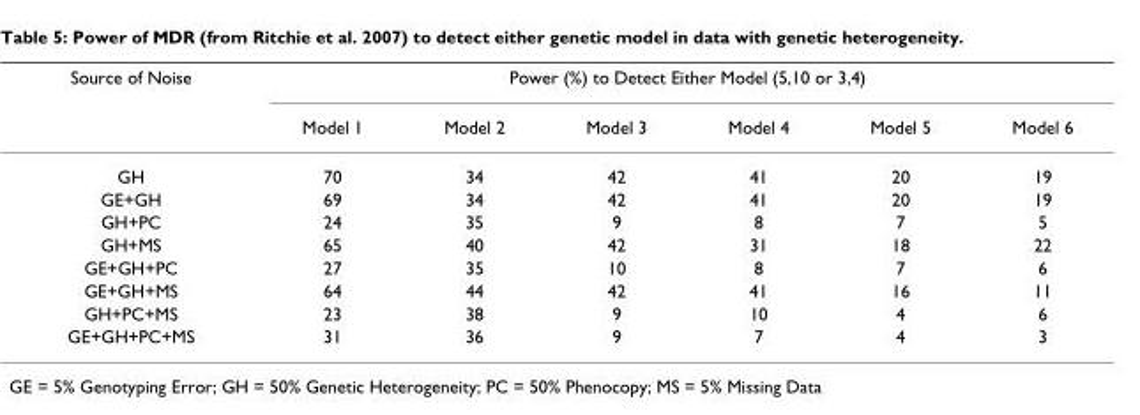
<table><thead><tr><td rowspan="2">Source of Noise</td><td colspan="6">Power (%) to Detect Either Model (5,10 or 3,4)</td></tr><tr><td>Model 1</td><td>Model 2</td><td>Model 3</td><td>Model 4</td><td>Model 5</td><td>Model 6</td></tr></thead><tbody><tr><td>GH</td><td>70</td><td>34</td><td>42</td><td>41</td><td>20</td><td>19</td></tr><tr><td>GE+GH</td><td>69</td><td>34</td><td>42</td><td>41</td><td>20</td><td>19</td></tr><tr><td>GH+PC</td><td>24</td><td>35</td><td>9</td><td>8</td><td>7</td><td>5</td></tr><tr><td>GH+MS</td><td>65</td><td>40</td><td>42</td><td>31</td><td>18</td><td>22</td></tr><tr><td>GE+GH+PC</td><td>27</td><td>35</td><td>10</td><td>8</td><td>7</td><td>6</td></tr><tr><td>GE+GH+MS</td><td>64</td><td>44</td><td>42</td><td>41</td><td>16</td><td>11</td></tr><tr><td>GH+PC+MS</td><td>23</td><td>38</td><td>9</td><td>10</td><td>4</td><td>6</td></tr><tr><td>GE+GH+PC+MS</td><td>31</td><td>36</td><td>9</td><td>7</td><td>4</td><td>3</td></tr></tbody></table>